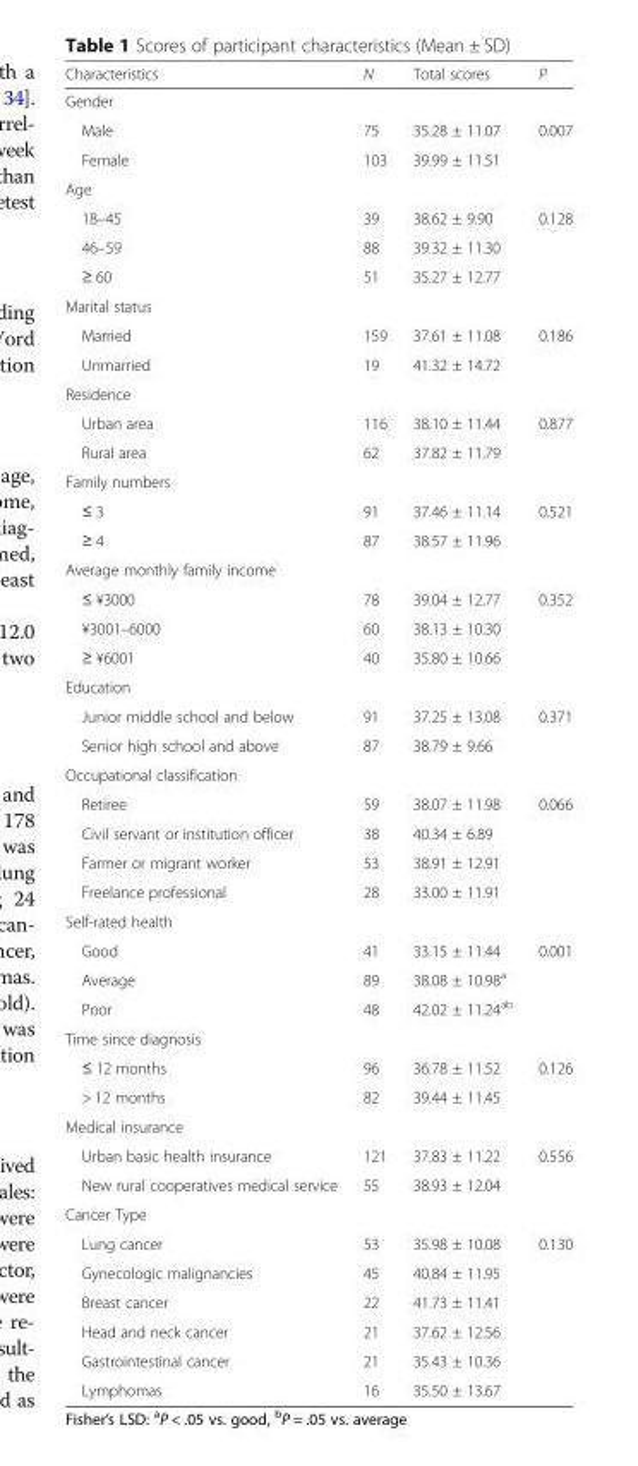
<table><thead><tr><td>Characteristics</td><td>N</td><td>Total scores</td><td>P</td></tr></thead><tbody><tr><td colspan="4">Gender</td></tr><tr><td>Male</td><td>75</td><td>35.28 ± 11.07</td><td rowspan="2">0.007</td></tr><tr><td>Female</td><td>103</td><td>39.99 ± 11.51</td></tr><tr><td colspan="4">Age</td></tr><tr><td>18–45</td><td>39</td><td>38.62 ± 9.90</td><td rowspan="3">0.128</td></tr><tr><td>46–59</td><td>88</td><td>39.32 ± 11.30</td></tr><tr><td>≥ 60</td><td>51</td><td>35.27 ± 12.77</td></tr><tr><td colspan="4">Marital status</td></tr><tr><td>Married</td><td>159</td><td>37.61 ± 11.08</td><td rowspan="2">0.186</td></tr><tr><td>Unmarried</td><td>19</td><td>41.32 ± 14.72</td></tr><tr><td colspan="4">Residence</td></tr><tr><td>Urban area</td><td>116</td><td>38.10 ± 11.44</td><td rowspan="2">0.877</td></tr><tr><td>Rural area</td><td>62</td><td>37.82 ± 11.79</td></tr><tr><td colspan="4">Family numbers</td></tr><tr><td>≤ 3</td><td>91</td><td>37.46 ± 11.14</td><td rowspan="2">0.521</td></tr><tr><td>≥ 4</td><td>87</td><td>38.57 ± 11.96</td></tr><tr><td colspan="4">Average monthly family income</td></tr><tr><td>≤ ¥3000</td><td>78</td><td>39.04 ± 12.77</td><td rowspan="3">0.352</td></tr><tr><td>¥3001–6000</td><td>60</td><td>38.13 ± 10.30</td></tr><tr><td>≥ ¥6001</td><td>40</td><td>35.80 ± 10.66</td></tr><tr><td colspan="4">Education</td></tr><tr><td>Junior middle school and below</td><td>91</td><td>37.25 ± 13.08</td><td rowspan="2">0.371</td></tr><tr><td>Senior high school and above</td><td>87</td><td>38.79 ± 9.66</td></tr><tr><td colspan="4">Occupational classification</td></tr><tr><td>Retiree</td><td>59</td><td>38.07 ± 11.98</td><td rowspan="4">0.066</td></tr><tr><td>Civil servant or institution officer</td><td>38</td><td>40.34 ± 6.89</td></tr><tr><td>Farmer or migrant worker</td><td>53</td><td>38.91 ± 12.91</td></tr><tr><td>Freelance professional</td><td>28</td><td>33.00 ± 11.91</td></tr><tr><td colspan="4">Self-rated health</td></tr><tr><td>Good</td><td>41</td><td>33.15 ± 11.44</td><td rowspan="3">0.001</td></tr><tr><td>Average</td><td>89</td><td>38.08 ± 10.98<sup>a</sup></td></tr><tr><td>Poor</td><td>48</td><td>42.02 ± 11.24<sup>ab</sup></td></tr><tr><td colspan="4">Time since diagnosis</td></tr><tr><td>≤ 12 months</td><td>96</td><td>36.78 ± 11.52</td><td rowspan="2">0.126</td></tr><tr><td>&gt; 12 months</td><td>82</td><td>39.44 ± 11.45</td></tr><tr><td colspan="4">Medical insurance</td></tr><tr><td>Urban basic health insurance</td><td>121</td><td>37.83 ± 11.22</td><td rowspan="2">0.556</td></tr><tr><td>New rural cooperatives medical service</td><td>55</td><td>38.93 ± 12.04</td></tr><tr><td colspan="4">Cancer Type</td></tr><tr><td>Lung cancer</td><td>53</td><td>35.98 ± 10.08</td><td rowspan="6">0.130</td></tr><tr><td>Gynecologic malignancies</td><td>45</td><td>40.84 ± 11.95</td></tr><tr><td>Breast cancer</td><td>22</td><td>41.73 ± 11.41</td></tr><tr><td>Head and neck cancer</td><td>21</td><td>37.62 ± 12.56</td></tr><tr><td>Gastrointestinal cancer</td><td>21</td><td>35.43 ± 10.36</td></tr><tr><td>Lymphomas</td><td>16</td><td>35.50 ± 13.67</td></tr></tbody></table>